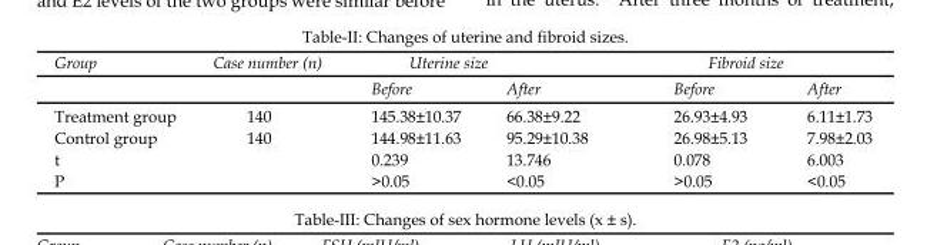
<table><thead><tr><td rowspan="2">Group</td><td rowspan="2">Case number (n)</td><td colspan="2">Uterine size</td><td colspan="2">Fibroid size</td></tr><tr><td>Before</td><td>After</td><td>Before</td><td>After</td></tr></thead><tbody><tr><td>Treatment group</td><td>140</td><td>145.38±10.37</td><td>66.38±9.22</td><td>26.93±4.93</td><td>6.11±1.73</td></tr><tr><td>Control group</td><td>140</td><td>144.98±11.63</td><td>95.29±10.38</td><td>26.98±5.13</td><td>7.98±2.03</td></tr><tr><td>t</td><td></td><td>0.239</td><td>13.746</td><td>0.078</td><td>6.003</td></tr><tr><td>P</td><td></td><td>&gt;0.05</td><td>&lt;0.05</td><td>&gt;0.05</td><td>&lt;0.05</td></tr></tbody></table>